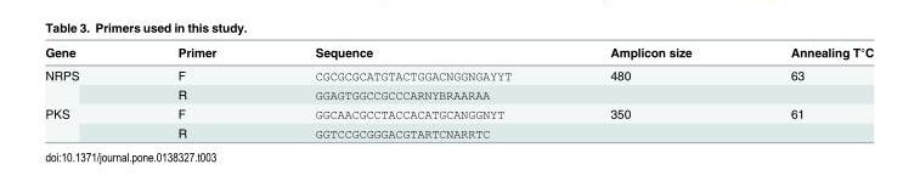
<table><thead><tr><td>Gene</td><td>Primer</td><td>Sequence</td><td>Amplicon size</td><td>Annealing T°C</td></tr></thead><tbody><tr><td rowspan="2">NRPS</td><td>F</td><td>CGCGCGCATGTACTGGACNGGNGAYYT</td><td>480</td><td>63</td></tr><tr><td>R</td><td>GGAGTGGCCGCCCARNYBRAARAA</td><td></td><td></td></tr><tr><td rowspan="2">PKS</td><td>F</td><td>GGCAACGCCTACCACATGCANGGNYT</td><td>350</td><td>61</td></tr><tr><td>R</td><td>GGTCCGCGGGACGTARTCNARRTC</td><td></td><td></td></tr></tbody></table>